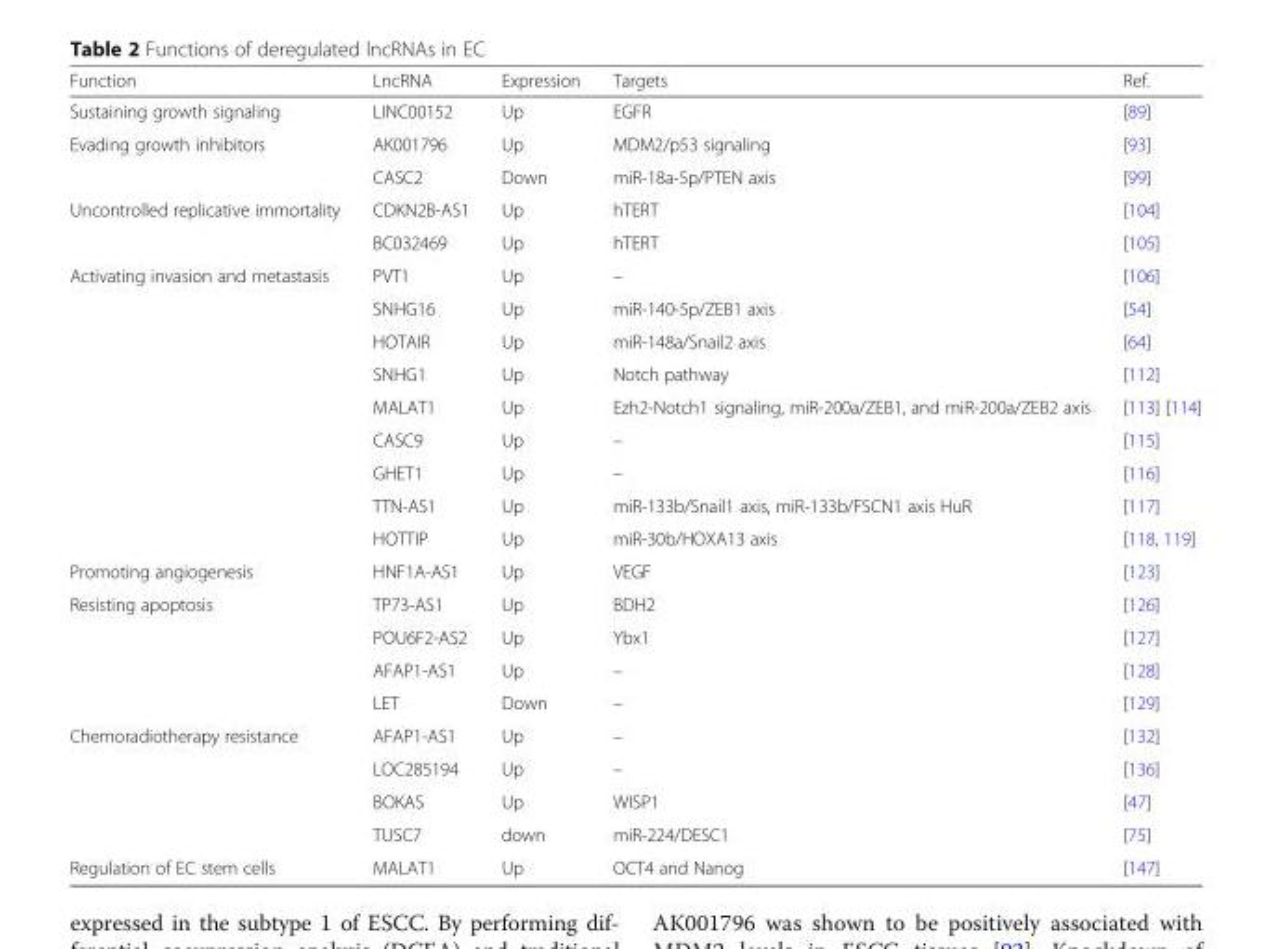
<table><thead><tr><td>Function</td><td>LncRNA</td><td>Expression</td><td>Targets</td><td>Ref.</td></tr></thead><tbody><tr><td>Sustaining growth signaling</td><td>LINC00152</td><td>Up</td><td>EGFR</td><td>[89]</td></tr><tr><td rowspan="2">Evading growth inhibitors</td><td>AK001796</td><td>Up</td><td>MDM2/p53 signaling</td><td>[93]</td></tr><tr><td>CASC2</td><td>Down</td><td>miR-18a-5p/PTEN axis</td><td>[99]</td></tr><tr><td rowspan="2">Uncontrolled replicative immortality</td><td>CDKN2B-AS1</td><td>Up</td><td>hTERT</td><td>[104]</td></tr><tr><td>BC032469</td><td>Up</td><td>hTERT</td><td>[105]</td></tr><tr><td rowspan="9">Activating invasion and metastasis</td><td>PVT1</td><td>Up</td><td>–</td><td>[106]</td></tr><tr><td>SNHG16</td><td>Up</td><td>miR-140-5p/ZEB1 axis</td><td>[54]</td></tr><tr><td>HOTAIR</td><td>Up</td><td>miR-148a/Snail2 axis</td><td>[64]</td></tr><tr><td>SNHG1</td><td>Up</td><td>Notch pathway</td><td>[112]</td></tr><tr><td>MALAT1</td><td>Up</td><td>Ezh2-Notch1 signaling, miR-200a/ZEB1, and miR-200a/ZEB2 axis</td><td>[113] [114]</td></tr><tr><td>CASC9</td><td>Up</td><td>–</td><td>[115]</td></tr><tr><td>GHET1</td><td>Up</td><td>–</td><td>[116]</td></tr><tr><td>TTN-AS1</td><td>Up</td><td>miR-133b/Snail1 axis, miR-133b/FSCN1 axis HuR</td><td>[117]</td></tr><tr><td>HOTTIP</td><td>Up</td><td>miR-30b/HOXA13 axis</td><td>[118, 119]</td></tr><tr><td>Promoting angiogenesis</td><td>HNF1A-AS1</td><td>Up</td><td>VEGF</td><td>[123]</td></tr><tr><td rowspan="4">Resisting apoptosis</td><td>TP73-AS1</td><td>Up</td><td>BDH2</td><td>[126]</td></tr><tr><td>POU6F2-AS2</td><td>Up</td><td>Ybx1</td><td>[127]</td></tr><tr><td>AFAP1-AS1</td><td>Up</td><td>–</td><td>[128]</td></tr><tr><td>LET</td><td>Down</td><td>–</td><td>[129]</td></tr><tr><td rowspan="4">Chemoradiotherapy resistance</td><td>AFAP1-AS1</td><td>Up</td><td>–</td><td>[132]</td></tr><tr><td>LOC285194</td><td>Up</td><td>–</td><td>[136]</td></tr><tr><td>BOKAS</td><td>Up</td><td>WISP1</td><td>[47]</td></tr><tr><td>TUSC7</td><td>down</td><td>miR-224/DESC1</td><td>[75]</td></tr><tr><td>Regulation of EC stem cells</td><td>MALAT1</td><td>Up</td><td>OCT4 and Nanog</td><td>[147]</td></tr></tbody></table>